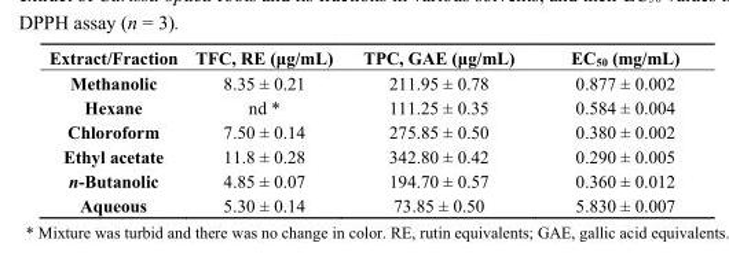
<table><thead><tr><td>Extract/Fraction</td><td>TFC, RE (μg/mL)</td><td>TPC, GAE (μg/mL)</td><td>EC<sub>50</sub> (mg/mL)</td></tr></thead><tbody><tr><td>Methanolic</td><td>8.35 ± 0.21</td><td>211.95 ± 0.78</td><td>0.877 ± 0.002</td></tr><tr><td>Hexane</td><td>nd *</td><td>111.25 ± 0.35</td><td>0.584 ± 0.004</td></tr><tr><td>Chloroform</td><td>7.50 ± 0.14</td><td>275.85 ± 0.50</td><td>0.380 ± 0.002</td></tr><tr><td>Ethyl acetate</td><td>11.8 ± 0.28</td><td>342.80 ± 0.42</td><td>0.290 ± 0.005</td></tr><tr><td>n-Butanolic</td><td>4.85 ± 0.07</td><td>194.70 ± 0.57</td><td>0.360 ± 0.012</td></tr><tr><td>Aqueous</td><td>5.30 ± 0.14</td><td>73.85 ± 0.50</td><td>5.830 ± 0.007</td></tr></tbody></table>